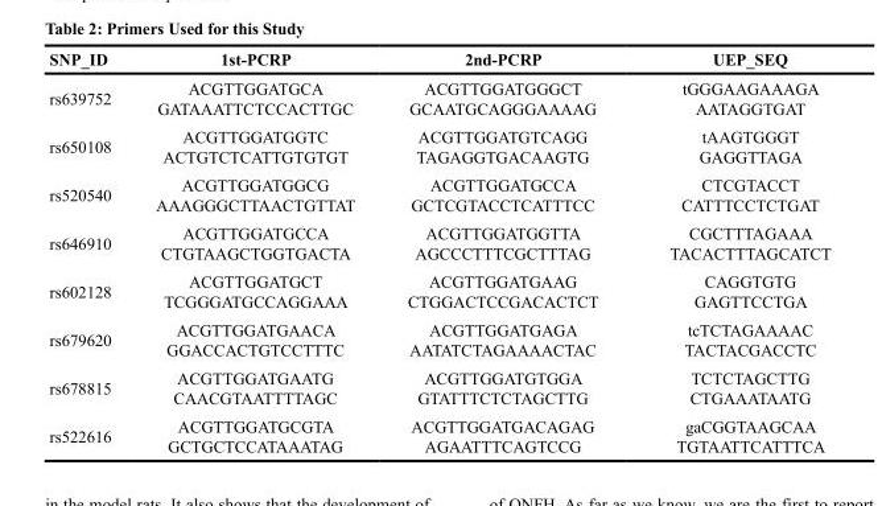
<table><thead><tr><td>SNP_ID</td><td>1st-PCRP</td><td>2nd-PCRP</td><td>UEP_SEQ</td></tr></thead><tbody><tr><td>rs639752</td><td>ACGTTGGATGCA GATAAATTCTCCACTTGC</td><td>ACGTTGGATGGGCT GCAATGCAGGGAAAAG</td><td>tGGGAAGAAAGA AATAGGTGAT</td></tr><tr><td>rs650108</td><td>ACGTTGGATGGTC ACTGTCTCATTGTGTGT</td><td>ACGTTGGATGTCAGG TAGAGGTGACAAGTG</td><td>tAAGTGGGT GAGGTTAGA</td></tr><tr><td>rs520540</td><td>ACGTTGGATGGCG AAAGGGCTTAACTGTTAT</td><td>ACGTTGGATGCCA GCTCGTACCTCATTTCC</td><td>CTCGTACCT CATTTCCTCTGAT</td></tr><tr><td>rs646910</td><td>ACGTTGGATGCCA CTGTAAGCTGGTGACTA</td><td>ACGTTGGATGGTTA AGCCCTTTCGCTTTAG</td><td>CGCTTTAGAAA TACACTTTAGCATCT</td></tr><tr><td>rs602128</td><td>ACGTTGGATGCT TCGGGATGCCAGGAAA</td><td>ACGTTGGATGAAG CTGGACTCCGACACTCT</td><td>CAGGTGTG GAGTTCCTGA</td></tr><tr><td>rs679620</td><td>ACGTTGGATGAACA GGACCACTGTCCTTTC</td><td>ACGTTGGATGAGA AATATCTAGAAAACTAC</td><td>tcTCTAGAAAAC TACTACGACCTC</td></tr><tr><td>rs678815</td><td>ACGTTGGATGAATG CAACGTAATTTTAGC</td><td>ACGTTGGATGTGGA GTATTTCTCTAGCTTG</td><td>TCTCTAGCTTG CTGAAATAATG</td></tr><tr><td>rs522616</td><td>ACGTTGGATGCGTA GCTGCTCCATAAATAG</td><td>ACGTTGGATGACAGAG AGAATTTCAGTCCG</td><td>gaCGGTAAGCAA TGTAATTCATTTCA</td></tr></tbody></table>